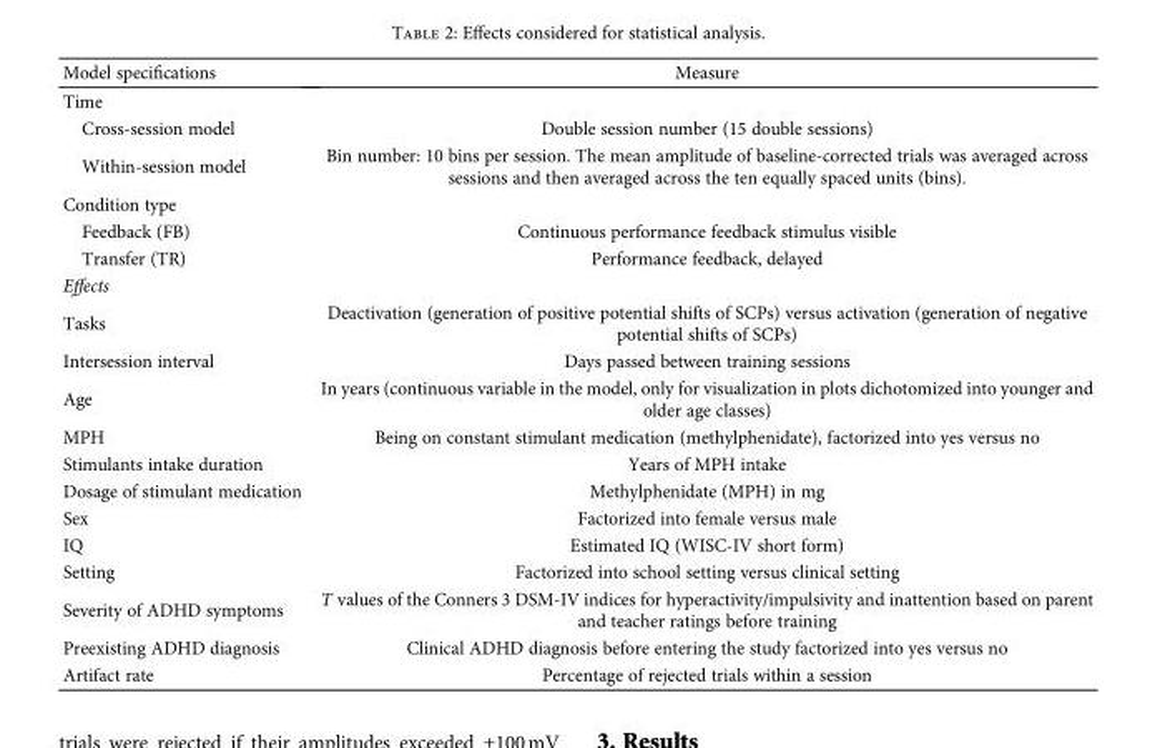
<table><thead><tr><td>Model specifications</td><td>Measure</td></tr></thead><tbody><tr><td colspan="2">Time</td></tr><tr><td>Cross-session model</td><td>Double session number (15 double sessions)</td></tr><tr><td>Within-session model</td><td>Bin number: 10 bins per session. The mean amplitude of baseline-corrected trials was averaged across sessions and then averaged across the ten equally spaced units (bins).</td></tr><tr><td colspan="2">Condition type</td></tr><tr><td>Feedback (FB)</td><td>Continuous performance feedback stimulus visible</td></tr><tr><td>Transfer (TR)</td><td>Performance feedback, delayed</td></tr><tr><td colspan="2">Effects</td></tr><tr><td>Tasks</td><td>Deactivation (generation of positive potential shifts of SCPs) versus activation (generation of negative potential shifts of SCPs)</td></tr><tr><td>Intersession interval</td><td>Days passed between training sessions</td></tr><tr><td>Age</td><td>In years (continuous variable in the model, only for visualization in plots dichotomized into younger and older age classes)</td></tr><tr><td>MPH</td><td>Being on constant stimulant medication (methylphenidate), factorized into yes versus no</td></tr><tr><td>Stimulants intake duration</td><td>Years of MPH intake</td></tr><tr><td>Dosage of stimulant medication</td><td>Methylphenidate (MPH) in mg</td></tr><tr><td>Sex</td><td>Factorized into female versus male</td></tr><tr><td>IQ</td><td>Estimated IQ (WISC-IV short form)</td></tr><tr><td>Setting</td><td>Factorized into school setting versus clinical setting</td></tr><tr><td>Severity of ADHD symptoms</td><td>T values of the Conners 3 DSM-IV indices for hyperactivity/impulsivity and inattention based on parent and teacher ratings before training</td></tr><tr><td>Preexisting ADHD diagnosis</td><td>Clinical ADHD diagnosis before entering the study factorized into yes versus no</td></tr><tr><td>Artifact rate</td><td>Percentage of rejected trials within a session</td></tr></tbody></table>